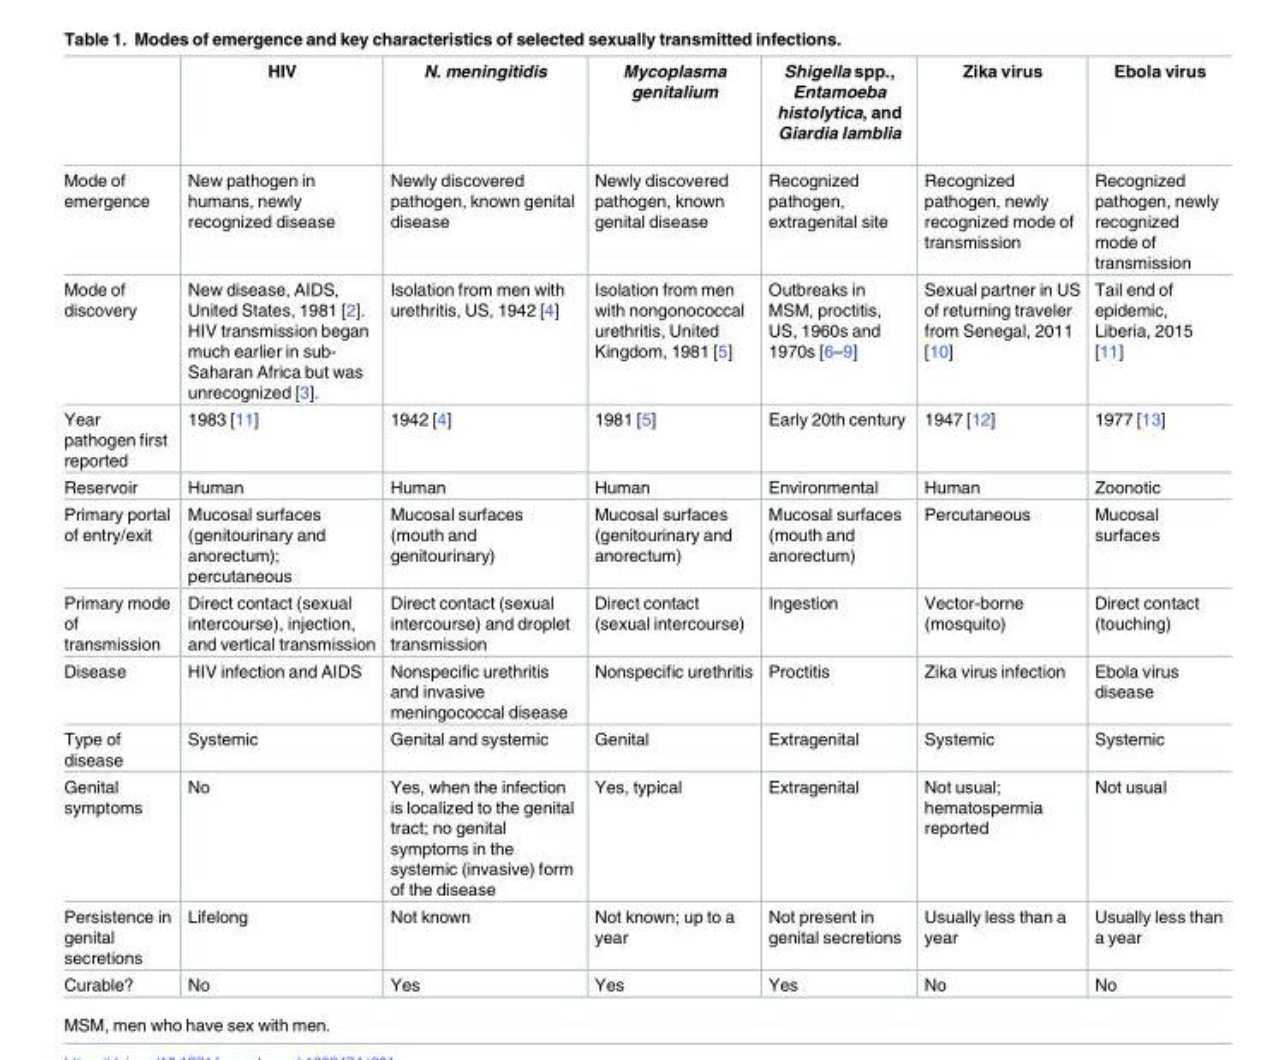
<table><thead><tr><td></td><td>HIV</td><td>N. meningitidis</td><td>Mycoplasma genitalium</td><td>Shigella spp., Entamoeba histolytica, and Giardia lamblia</td><td>Zika virus</td><td>Ebola virus</td></tr></thead><tbody><tr><td>Mode of emergence</td><td>New pathogen in humans, newly recognized disease</td><td>Newly discovered pathogen, known genital disease</td><td>Newly discovered pathogen, known genital disease</td><td>Recognized pathogen, extragenital site</td><td>Recognized pathogen, newly recognized mode of transmission</td><td>Recognized pathogen, newly recognized mode of transmission</td></tr><tr><td>Mode of discovery</td><td>New disease, AIDS, United States, 1981 [2]. HIV transmission began much earlier in sub- Saharan Africa but was unrecognized [3].</td><td>Isolation from men with urethritis, US, 1942 [4]</td><td>Isolation from men with nongonococcal urethritis, United Kingdom, 1981 [5]</td><td>Outbreaks in MSM, proctitis, US, 1960s and 1970s [6–9]</td><td>Sexual partner in US of returning traveler from Senegal, 2011 [10]</td><td>Tail end of epidemic, Liberia, 2015 [11]</td></tr><tr><td>Year pathogen first reported</td><td>1983 [11]</td><td>1942 [4]</td><td>1981 [5]</td><td>Early 20th century</td><td>1947 [12]</td><td>1977 [13]</td></tr><tr><td>Reservoir</td><td>Human</td><td>Human</td><td>Human</td><td>Environmental</td><td>Human</td><td>Zoonotic</td></tr><tr><td>Primary portal of entry/exit</td><td>Mucosal surfaces (genitourinary and anorectum); percutaneous</td><td>Mucosal surfaces (mouth and genitourinary)</td><td>Mucosal surfaces (genitourinary and anorectum)</td><td>Mucosal surfaces (mouth and anorectum)</td><td>Percutaneous</td><td>Mucosal surfaces</td></tr><tr><td>Primary mode of transmission</td><td>Direct contact (sexual intercourse), injection, and vertical transmission</td><td>Direct contact (sexual intercourse) and droplet transmission</td><td>Direct contact (sexual intercourse)</td><td>Ingestion</td><td>Vector-borne (mosquito)</td><td>Direct contact (touching)</td></tr><tr><td>Disease</td><td>HIV infection and AIDS</td><td>Nonspecific urethritis and invasive meningococcal disease</td><td>Nonspecific urethritis</td><td>Proctitis</td><td>Zika virus infection</td><td>Ebola virus disease</td></tr><tr><td>Type of disease</td><td>Systemic</td><td>Genital and systemic</td><td>Genital</td><td>Extragenital</td><td>Systemic</td><td>Systemic</td></tr><tr><td>Genital symptoms</td><td>No</td><td>Yes, when the infection is localized to the genital tract; no genital symptoms in the systemic (invasive) form of the disease</td><td>Yes, typical</td><td>Extragenital</td><td>Not usual; hematospermia reported</td><td>Not usual</td></tr><tr><td>Persistence in genital secretions</td><td>Lifelong</td><td>Not known</td><td>Not known; up to a year</td><td>Not present in genital secretions</td><td>Usually less than a year</td><td>Usually less than a year</td></tr><tr><td>Curable?</td><td>No</td><td>Yes</td><td>Yes</td><td>Yes</td><td>No</td><td>No</td></tr></tbody></table>